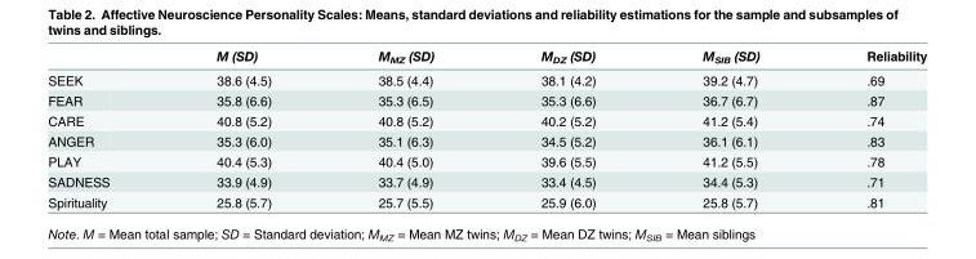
<table><thead><tr><td></td><td>M (SD)</td><td>M<sub>MZ</sub> (SD)</td><td>M<sub>DZ</sub> (SD)</td><td>M<sub>SIB</sub> (SD)</td><td>Reliability</td></tr></thead><tbody><tr><td>SEEK</td><td>38.6 (4.5)</td><td>38.5 (4.4)</td><td>38.1 (4.2)</td><td>39.2 (4.7)</td><td>.69</td></tr><tr><td>FEAR</td><td>35.8 (6.6)</td><td>35.3 (6.5)</td><td>35.3 (6.6)</td><td>36.7 (6.7)</td><td>.87</td></tr><tr><td>CARE</td><td>40.8 (5.2)</td><td>40.8 (5.2)</td><td>40.2 (5.2)</td><td>41.2 (5.4)</td><td>.74</td></tr><tr><td>ANGER</td><td>35.3 (6.0)</td><td>35.1 (6.3)</td><td>34.5 (5.2)</td><td>36.1 (6.1)</td><td>.83</td></tr><tr><td>PLAY</td><td>40.4 (5.3)</td><td>40.4 (5.0)</td><td>39.6 (5.5)</td><td>41.2 (5.5)</td><td>.78</td></tr><tr><td>SADNESS</td><td>33.9 (4.9)</td><td>33.7 (4.9)</td><td>33.4 (4.5)</td><td>34.4 (5.3)</td><td>.71</td></tr><tr><td>Spirituality</td><td>25.8 (5.7)</td><td>25.7 (5.5)</td><td>25.9 (6.0)</td><td>25.8 (5.7)</td><td>.81</td></tr></tbody></table>